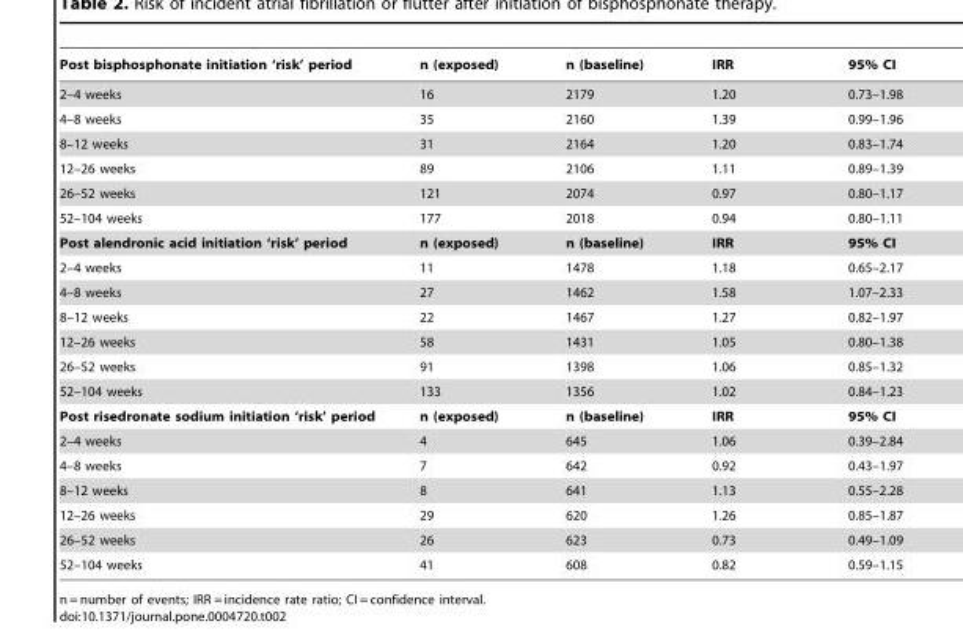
<table><thead><tr><td>Post bisphosphonate initiation ‘risk’ period</td><td>n (exposed)</td><td>n (baseline)</td><td>IRR</td><td>95% CI</td></tr></thead><tbody><tr><td>2–4 weeks</td><td>16</td><td>2179</td><td>1.20</td><td>0.73–1.98</td></tr><tr><td>4–8 weeks</td><td>35</td><td>2160</td><td>1.39</td><td>0.99–1.96</td></tr><tr><td>8–12 weeks</td><td>31</td><td>2164</td><td>1.20</td><td>0.83–1.74</td></tr><tr><td>12–26 weeks</td><td>89</td><td>2106</td><td>1.11</td><td>0.89–1.39</td></tr><tr><td>26–52 weeks</td><td>121</td><td>2074</td><td>0.97</td><td>0.80–1.17</td></tr><tr><td>52–104 weeks</td><td>177</td><td>2018</td><td>0.94</td><td>0.80–1.11</td></tr><tr><td>Post alendronic acid initiation ‘risk’ period</td><td>n (exposed)</td><td>n (baseline)</td><td>IRR</td><td>95% CI</td></tr><tr><td>2–4 weeks</td><td>11</td><td>1478</td><td>1.18</td><td>0.65–2.17</td></tr><tr><td>4–8 weeks</td><td>27</td><td>1462</td><td>1.58</td><td>1.07–2.33</td></tr><tr><td>8–12 weeks</td><td>22</td><td>1467</td><td>1.27</td><td>0.82–1.97</td></tr><tr><td>12–26 weeks</td><td>58</td><td>1431</td><td>1.05</td><td>0.80–1.38</td></tr><tr><td>26–52 weeks</td><td>91</td><td>1398</td><td>1.06</td><td>0.85–1.32</td></tr><tr><td>52–104 weeks</td><td>133</td><td>1356</td><td>1.02</td><td>0.84–1.23</td></tr><tr><td>Post risedronate sodium initiation ‘risk’ period</td><td>n (exposed)</td><td>n (baseline)</td><td>IRR</td><td>95% CI</td></tr><tr><td>2–4 weeks</td><td>4</td><td>645</td><td>1.06</td><td>0.39–2.84</td></tr><tr><td>4–8 weeks</td><td>7</td><td>642</td><td>0.92</td><td>0.43–1.97</td></tr><tr><td>8–12 weeks</td><td>8</td><td>641</td><td>1.13</td><td>0.55–2.28</td></tr><tr><td>12–26 weeks</td><td>29</td><td>620</td><td>1.26</td><td>0.85–1.87</td></tr><tr><td>26–52 weeks</td><td>26</td><td>623</td><td>0.73</td><td>0.49–1.09</td></tr><tr><td>52–104 weeks</td><td>41</td><td>608</td><td>0.82</td><td>0.59–1.15</td></tr></tbody></table>